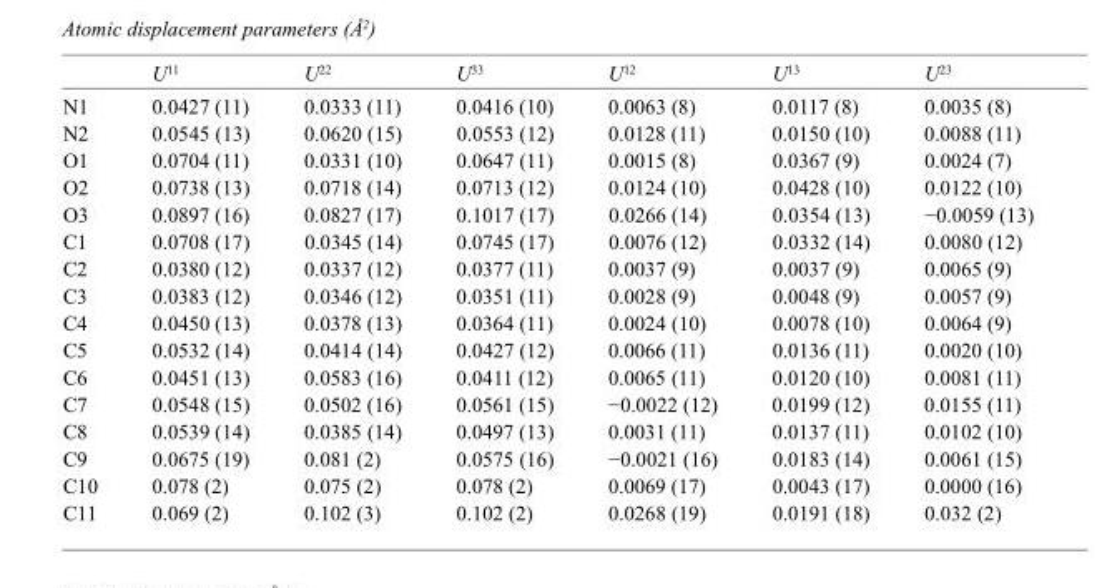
<table><thead><tr><td></td><td>U<sup>11</sup></td><td>U<sup>22</sup></td><td>U<sup>33</sup></td><td>U<sup>12</sup></td><td>U<sup>13</sup></td><td>U<sup>23</sup></td></tr></thead><tbody><tr><td>N1</td><td>0.0427 (11)</td><td>0.0333 (11)</td><td>0.0416 (10)</td><td>0.0063 (8)</td><td>0.0117 (8)</td><td>0.0035 (8)</td></tr><tr><td>N2</td><td>0.0545 (13)</td><td>0.0620 (15)</td><td>0.0553 (12)</td><td>0.0128 (11)</td><td>0.0150 (10)</td><td>0.0088 (11)</td></tr><tr><td>O1</td><td>0.0704 (11)</td><td>0.0331 (10)</td><td>0.0647 (11)</td><td>0.0015 (8)</td><td>0.0367 (9)</td><td>0.0024 (7)</td></tr><tr><td>O2</td><td>0.0738 (13)</td><td>0.0718 (14)</td><td>0.0713 (12)</td><td>0.0124 (10)</td><td>0.0428 (10)</td><td>0.0122 (10)</td></tr><tr><td>O3</td><td>0.0897 (16)</td><td>0.0827 (17)</td><td>0.1017 (17)</td><td>0.0266 (14)</td><td>0.0354 (13)</td><td>−0.0059 (13)</td></tr><tr><td>C1</td><td>0.0708 (17)</td><td>0.0345 (14)</td><td>0.0745 (17)</td><td>0.0076 (12)</td><td>0.0332 (14)</td><td>0.0080 (12)</td></tr><tr><td>C2</td><td>0.0380 (12)</td><td>0.0337 (12)</td><td>0.0377 (11)</td><td>0.0037 (9)</td><td>0.0037 (9)</td><td>0.0065 (9)</td></tr><tr><td>C3</td><td>0.0383 (12)</td><td>0.0346 (12)</td><td>0.0351 (11)</td><td>0.0028 (9)</td><td>0.0048 (9)</td><td>0.0057 (9)</td></tr><tr><td>C4</td><td>0.0450 (13)</td><td>0.0378 (13)</td><td>0.0364 (11)</td><td>0.0024 (10)</td><td>0.0078 (10)</td><td>0.0064 (9)</td></tr><tr><td>C5</td><td>0.0532 (14)</td><td>0.0414 (14)</td><td>0.0427 (12)</td><td>0.0066 (11)</td><td>0.0136 (11)</td><td>0.0020 (10)</td></tr><tr><td>C6</td><td>0.0451 (13)</td><td>0.0583 (16)</td><td>0.0411 (12)</td><td>0.0065 (11)</td><td>0.0120 (10)</td><td>0.0081 (11)</td></tr><tr><td>C7</td><td>0.0548 (15)</td><td>0.0502 (16)</td><td>0.0561 (15)</td><td>−0.0022 (12)</td><td>0.0199 (12)</td><td>0.0155 (11)</td></tr><tr><td>C8</td><td>0.0539 (14)</td><td>0.0385 (14)</td><td>0.0497 (13)</td><td>0.0031 (11)</td><td>0.0137 (11)</td><td>0.0102 (10)</td></tr><tr><td>C9</td><td>0.0675 (19)</td><td>0.081 (2)</td><td>0.0575 (16)</td><td>−0.0021 (16)</td><td>0.0183 (14)</td><td>0.0061 (15)</td></tr><tr><td>C10</td><td>0.078 (2)</td><td>0.075 (2)</td><td>0.078 (2)</td><td>0.0069 (17)</td><td>0.0043 (17)</td><td>0.0000 (16)</td></tr><tr><td>C11</td><td>0.069 (2)</td><td>0.102 (3)</td><td>0.102 (2)</td><td>0.0268 (19)</td><td>0.0191 (18)</td><td>0.032 (2)</td></tr></tbody></table>